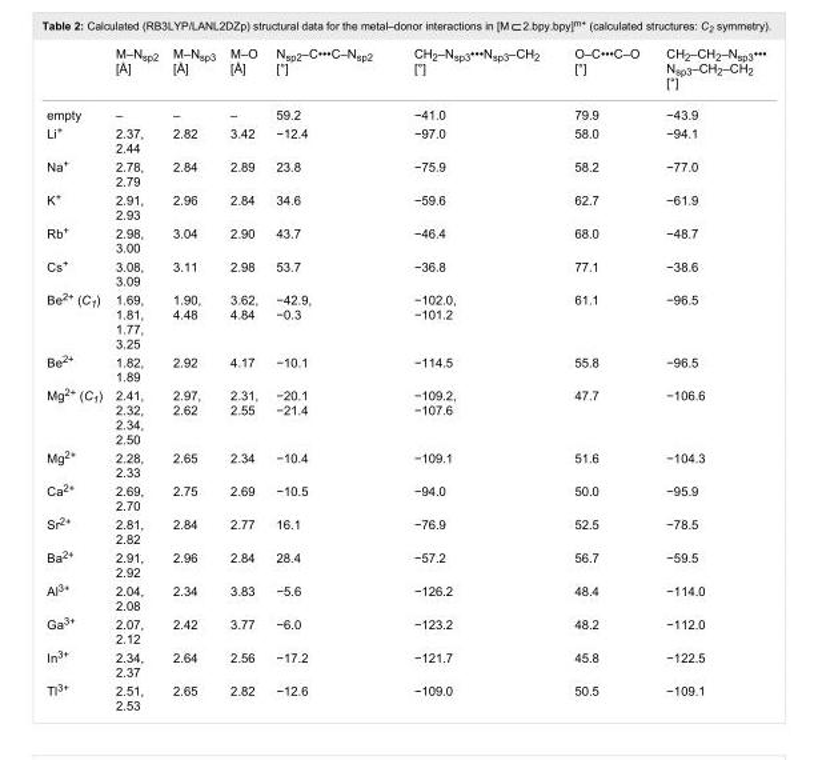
<table><thead><tr><td></td><td>M–N<sub>sp2</sub> [Å]</td><td>M–N<sub>sp3</sub> [Å]</td><td>M–O [Å]</td><td>N<sub>sp2</sub>–C•••C–N<sub>sp2</sub> [°]</td><td>CH<sub>2</sub>–N<sub>sp3</sub>•••N<sub>sp3</sub>–CH<sub>2</sub> [°]</td><td>O–C•••C–O [°]</td><td>CH<sub>2</sub>–CH<sub>2</sub>–N<sub>sp3</sub>••• N<sub>sp3</sub>–CH<sub>2</sub>–CH<sub>2</sub> [°]</td></tr></thead><tbody><tr><td>empty</td><td>–</td><td>–</td><td>–</td><td>59.2</td><td>−41.0</td><td>79.9</td><td>−43.9</td></tr><tr><td>Li<sup>+</sup></td><td>2.37, 2.44</td><td>2.82</td><td>3.42</td><td>−12.4</td><td>−97.0</td><td>58.0</td><td>−94.1</td></tr><tr><td>Na<sup>+</sup></td><td>2.78, 2.79</td><td>2.84</td><td>2.89</td><td>23.8</td><td>−75.9</td><td>58.2</td><td>−77.0</td></tr><tr><td>K<sup>+</sup></td><td>2.91, 2.93</td><td>2.96</td><td>2.84</td><td>34.6</td><td>−59.6</td><td>62.7</td><td>−61.9</td></tr><tr><td>Rb<sup>+</sup></td><td>2.98, 3.00</td><td>3.04</td><td>2.90</td><td>43.7</td><td>−46.4</td><td>68.0</td><td>−48.7</td></tr><tr><td>Cs<sup>+</sup></td><td>3.08, 3.09</td><td>3.11</td><td>2.98</td><td>53.7</td><td>−36.8</td><td>77.1</td><td>−38.6</td></tr><tr><td>Be<sup>2+</sup> (C<sub>1</sub>)</td><td>1.69, 1.81, 1.77, 3.25</td><td>1.90, 4.48</td><td>3.62, 4.84</td><td>−42.9, −0.3</td><td>−102.0, −101.2</td><td>61.1</td><td>−96.5</td></tr><tr><td>Be<sup>2+</sup></td><td>1.82, 1.89</td><td>2.92</td><td>4.17</td><td>−10.1</td><td>−114.5</td><td>55.8</td><td>−96.5</td></tr><tr><td>Mg<sup>2+</sup> (C<sub>1</sub>)</td><td>2.41, 2.32, 2.34, 2.50</td><td>2.97, 2.62</td><td>2.31, 2.55</td><td>−20.1 −21.4</td><td>−109.2, −107.6</td><td>47.7</td><td>−106.6</td></tr><tr><td>Mg<sup>2+</sup></td><td>2.28, 2.33</td><td>2.65</td><td>2.34</td><td>−10.4</td><td>−109.1</td><td>51.6</td><td>−104.3</td></tr><tr><td>Ca<sup>2+</sup></td><td>2.69, 2.70</td><td>2.75</td><td>2.69</td><td>−10.5</td><td>−94.0</td><td>50.0</td><td>−95.9</td></tr><tr><td>Sr<sup>2+</sup></td><td>2.81, 2.82</td><td>2.84</td><td>2.77</td><td>16.1</td><td>−76.9</td><td>52.5</td><td>−78.5</td></tr><tr><td>Ba<sup>2+</sup></td><td>2.91, 2.92</td><td>2.96</td><td>2.84</td><td>28.4</td><td>−57.2</td><td>56.7</td><td>−59.5</td></tr><tr><td>Al<sup>3+</sup></td><td>2.04, 2.08</td><td>2.34</td><td>3.83</td><td>−5.6</td><td>−126.2</td><td>48.4</td><td>−114.0</td></tr><tr><td>Ga<sup>3+</sup></td><td>2.07, 2.12</td><td>2.42</td><td>3.77</td><td>−6.0</td><td>−123.2</td><td>48.2</td><td>−112.0</td></tr><tr><td>In<sup>3+</sup></td><td>2.34, 2.37</td><td>2.64</td><td>2.56</td><td>−17.2</td><td>−121.7</td><td>45.8</td><td>−122.5</td></tr><tr><td>Tl<sup>3+</sup></td><td>2.51, 2.53</td><td>2.65</td><td>2.82</td><td>−12.6</td><td>−109.0</td><td>50.5</td><td>−109.1</td></tr></tbody></table>